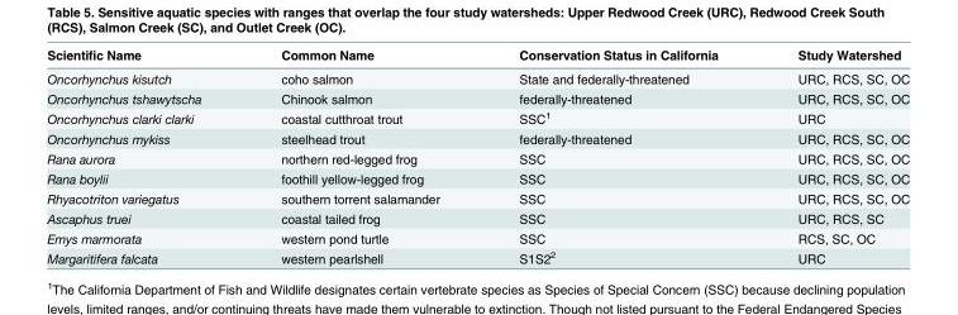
<table><thead><tr><td>Scientific Name</td><td>Common Name</td><td>Conservation Status in California</td><td>Study Watershed</td></tr></thead><tbody><tr><td>Oncorhynchus kisutch</td><td>coho salmon</td><td>State and federally-threatened</td><td>URC, RCS, SC, OC</td></tr><tr><td>Oncorhynchus tshawytscha</td><td>Chinook salmon</td><td>federally-threatened</td><td>URC, RCS, SC, OC</td></tr><tr><td>Oncorhynchus clarki clarki</td><td>coastal cutthroat trout</td><td>SSC<sup>1</sup></td><td>URC</td></tr><tr><td>Oncorhynchus mykiss</td><td>steelhead trout</td><td>federally-threatened</td><td>URC, RCS, SC, OC</td></tr><tr><td>Rana aurora</td><td>northern red-legged frog</td><td>SSC</td><td>URC, RCS, SC, OC</td></tr><tr><td>Rana boylii</td><td>foothill yellow-legged frog</td><td>SSC</td><td>URC, RCS, SC, OC</td></tr><tr><td>Rhyacotriton variegatus</td><td>southern torrent salamander</td><td>SSC</td><td>URC, RCS, SC, OC</td></tr><tr><td>Ascaphus truei</td><td>coastal tailed frog</td><td>SSC</td><td>URC, RCS, SC</td></tr><tr><td>Emys marmorata</td><td>western pond turtle</td><td>SSC</td><td>RCS, SC, OC</td></tr><tr><td>Margaritifera falcata</td><td>western pearlshell</td><td>S1S2<sup>2</sup></td><td>URC</td></tr></tbody></table>